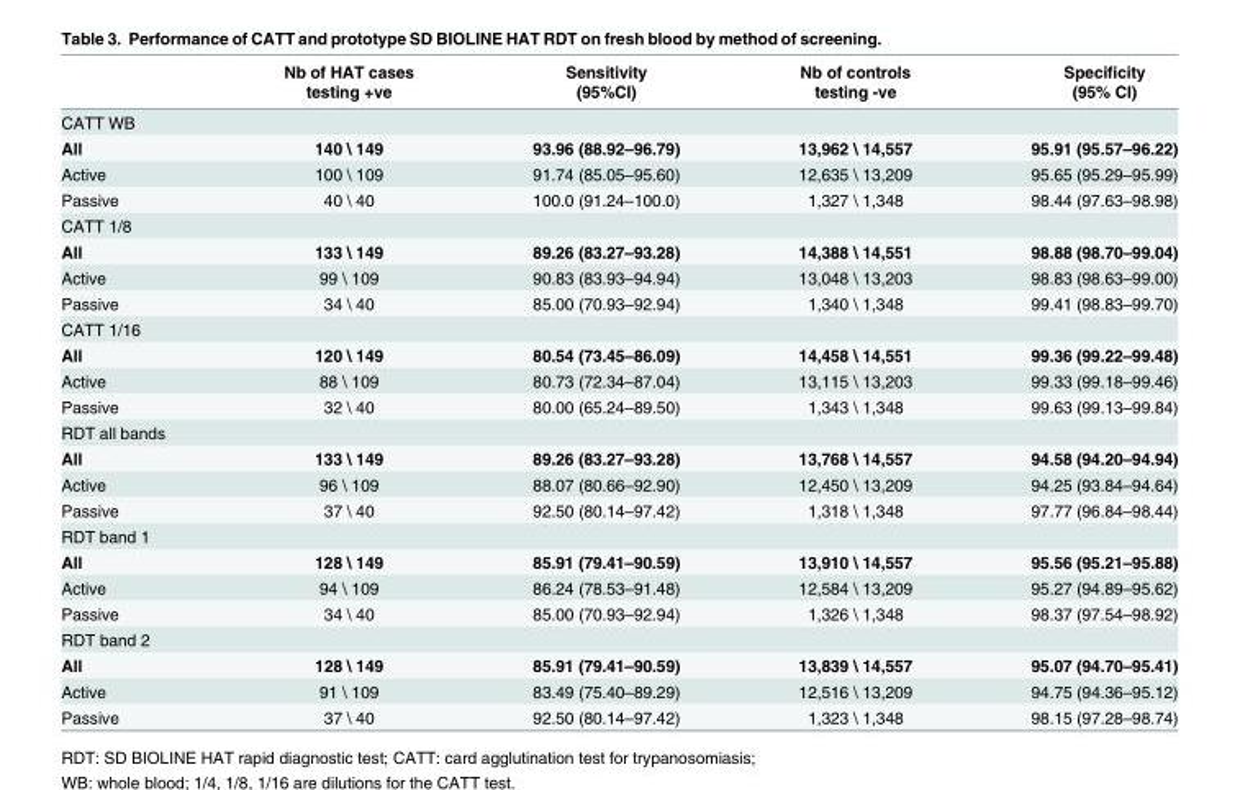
<table><thead><tr><td rowspan="2"></td><td rowspan="2">Nb of HAT cases testing +ve</td><td rowspan="2">Sensitivity (95%CI)</td><td rowspan="2">Nb of controls testing -ve</td><td rowspan="2">Specificity (95% CI)</td></tr><tr></tr></thead><tbody><tr><td colspan="5">CATT WB</td></tr><tr><td>All</td><td>140 \ 149</td><td>93.96 (88.92–96.79)</td><td>13,962 \ 14,557</td><td>95.91 (95.57–96.22)</td></tr><tr><td>Active</td><td>100 \ 109</td><td>91.74 (85.05–95.60)</td><td>12,635 \ 13,209</td><td>95.65 (95.29–95.99)</td></tr><tr><td>Passive</td><td>40 \ 40</td><td>100.0 (91.24–100.0)</td><td>1,327 \ 1,348</td><td>98.44 (97.63–98.98)</td></tr><tr><td colspan="5">CATT 1/8</td></tr><tr><td>All</td><td>133 \ 149</td><td>89.26 (83.27–93.28)</td><td>14,388 \ 14,551</td><td>98.88 (98.70–99.04)</td></tr><tr><td>Active</td><td>99 \ 109</td><td>90.83 (83.93–94.94)</td><td>13,048 \ 13,203</td><td>98.83 (98.63–99.00)</td></tr><tr><td>Passive</td><td>34 \ 40</td><td>85.00 (70.93–92.94)</td><td>1,340 \ 1,348</td><td>99.41 (98.83–99.70)</td></tr><tr><td colspan="5">CATT 1/16</td></tr><tr><td>All</td><td>120 \ 149</td><td>80.54 (73.45–86.09)</td><td>14,458 \ 14,551</td><td>99.36 (99.22–99.48)</td></tr><tr><td>Active</td><td>88 \ 109</td><td>80.73 (72.34–87.04)</td><td>13,115 \ 13,203</td><td>99.33 (99.18–99.46)</td></tr><tr><td>Passive</td><td>32 \ 40</td><td>80.00 (65.24–89.50)</td><td>1,343 \ 1,348</td><td>99.63 (99.13–99.84)</td></tr><tr><td colspan="5">RDT all bands</td></tr><tr><td>All</td><td>133 \ 149</td><td>89.26 (83.27–93.28)</td><td>13,768 \ 14,557</td><td>94.58 (94.20–94.94)</td></tr><tr><td>Active</td><td>96 \ 109</td><td>88.07 (80.66–92.90)</td><td>12,450 \ 13,209</td><td>94.25 (93.84–94.64)</td></tr><tr><td>Passive</td><td>37 \ 40</td><td>92.50 (80.14–97.42)</td><td>1,318 \ 1,348</td><td>97.77 (96.84–98.44)</td></tr><tr><td colspan="5">RDT band 1</td></tr><tr><td>All</td><td>128 \ 149</td><td>85.91 (79.41–90.59)</td><td>13,910 \ 14,557</td><td>95.56 (95.21–95.88)</td></tr><tr><td>Active</td><td>94 \ 109</td><td>86.24 (78.53–91.48)</td><td>12,584 \ 13,209</td><td>95.27 (94.89–95.62)</td></tr><tr><td>Passive</td><td>34 \ 40</td><td>85.00 (70.93–92.94)</td><td>1,326 \ 1,348</td><td>98.37 (97.54–98.92)</td></tr><tr><td colspan="5">RDT band 2</td></tr><tr><td>All</td><td>128 \ 149</td><td>85.91 (79.41–90.59)</td><td>13,839 \ 14,557</td><td>95.07 (94.70–95.41)</td></tr><tr><td>Active</td><td>91 \ 109</td><td>83.49 (75.40–89.29)</td><td>12,516 \ 13,209</td><td>94.75 (94.36–95.12)</td></tr><tr><td>Passive</td><td>37 \ 40</td><td>92.50 (80.14–97.42)</td><td>1,323 \ 1,348</td><td>98.15 (97.28–98.74)</td></tr></tbody></table>